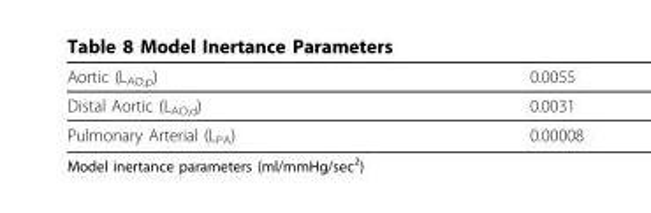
<table><thead><tr><td>Aortic (L<sub>AO,p</sub>)</td><td>0.0055</td></tr></thead><tbody><tr><td>Distal Aortic (L<sub>AO,d</sub>)</td><td>0.0031</td></tr><tr><td>Pulmonary Arterial (L<sub>PA</sub>)</td><td>0.00008</td></tr></tbody></table>